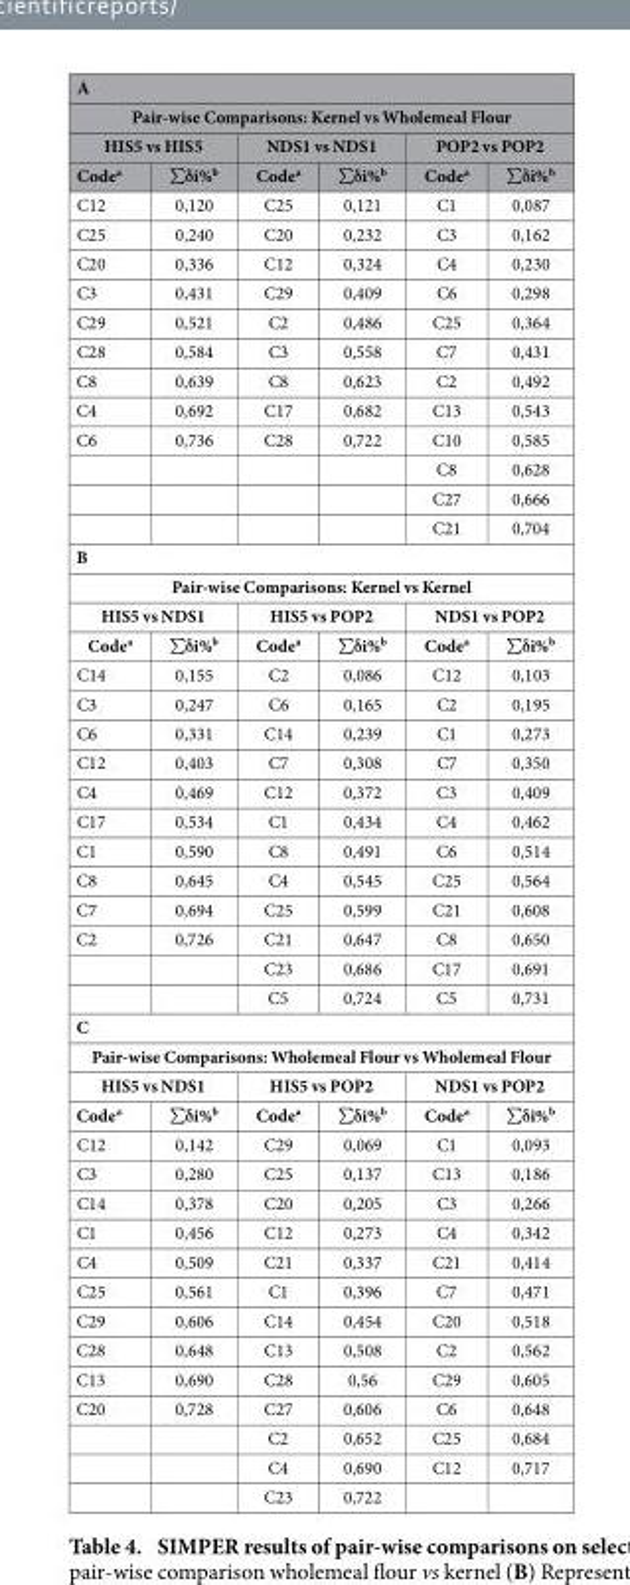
<table><thead><tr><td rowspan="2" colspan="6">A Pair-wise Comparisons: Kernel vs Wholemeal Flour</td></tr><tr></tr><tr><td colspan="2">HIS5 vs HIS5</td><td colspan="2">NDS1 vs NDS1</td><td colspan="2">POP2 vs POP2</td></tr><tr><td>Code<sup>a</sup></td><td>∑δi%<sup>b</sup></td><td>Code<sup>a</sup></td><td>∑δi%<sup>b</sup></td><td>Code<sup>a</sup></td><td>∑δi%<sup>b</sup></td></tr></thead><tbody><tr><td>C12</td><td>0,120</td><td>C25</td><td>0,121</td><td>C1</td><td>0,087</td></tr><tr><td>C25</td><td>0,240</td><td>C20</td><td>0,232</td><td>C3</td><td>0,162</td></tr><tr><td>C20</td><td>0,336</td><td>C12</td><td>0,324</td><td>C4</td><td>0,230</td></tr><tr><td>C3</td><td>0,431</td><td>C29</td><td>0,409</td><td>C6</td><td>0,298</td></tr><tr><td>C29</td><td>0,521</td><td>C2</td><td>0,486</td><td>C25</td><td>0,364</td></tr><tr><td>C28</td><td>0,584</td><td>C3</td><td>0,558</td><td>C7</td><td>0,431</td></tr><tr><td>C8</td><td>0,639</td><td>C8</td><td>0,623</td><td>C2</td><td>0,492</td></tr><tr><td>C4</td><td>0,692</td><td>C17</td><td>0,682</td><td>C13</td><td>0,543</td></tr><tr><td rowspan="4">C6</td><td>0,736</td><td>C28</td><td>0,722</td><td>C10</td><td>0,585</td></tr><tr><td></td><td></td><td></td><td>C8</td><td>0,628</td></tr><tr><td></td><td></td><td></td><td>C27</td><td>0,666</td></tr><tr><td></td><td></td><td></td><td>C21</td><td>0,704</td></tr><tr><td colspan="6">B</td></tr><tr><td colspan="6">Pair-wise Comparisons: Kernel vs Kernel</td></tr><tr><td colspan="2">HIS5 vs NDS1</td><td colspan="2">HIS5 vs POP2</td><td colspan="2">NDS1 vs POP2</td></tr><tr><td>Code<sup>a</sup></td><td>∑ δ i%<sup>b</sup></td><td>Code<sup>a</sup></td><td>∑ δ i%<sup>b</sup></td><td>Code<sup>a</sup></td><td>∑ δ i%<sup>b</sup></td></tr><tr><td>C14</td><td>0,155</td><td>C2</td><td>0,086</td><td>C12</td><td>0,103</td></tr><tr><td>C3</td><td>0,247</td><td>C6</td><td>0,165</td><td>C2</td><td>0,195</td></tr><tr><td>C6</td><td>0,331</td><td>C14</td><td>0,239</td><td>C1</td><td>0,273</td></tr><tr><td>C12</td><td>0,403</td><td>C7</td><td>0,308</td><td>C7</td><td>0,350</td></tr><tr><td>C4</td><td>0,469</td><td>C12</td><td>0,372</td><td>C3</td><td>0,409</td></tr><tr><td>C17</td><td>0,534</td><td>C1</td><td>0,434</td><td>C4</td><td>0,462</td></tr><tr><td>C1</td><td>0,590</td><td>C8</td><td>0,491</td><td>C6</td><td>0,514</td></tr><tr><td>C8</td><td>0,645</td><td>C4</td><td>0,545</td><td>C25</td><td>0,564</td></tr><tr><td>C7</td><td>0,694</td><td>C25</td><td>0,599</td><td>C21</td><td>0,608</td></tr><tr><td rowspan="3">C2</td><td>0,726</td><td>C21</td><td>0,647</td><td>C8</td><td>0,650</td></tr><tr><td></td><td>C23</td><td>0,686</td><td>C17</td><td>0,691</td></tr><tr><td></td><td>C5</td><td>0,724</td><td>C5</td><td>0,731</td></tr><tr><td colspan="6">C</td></tr><tr><td colspan="6">Pair-wise Comparisons: Wholemeal Flour vs Wholemeal Flour</td></tr><tr><td colspan="2">HIS5 vs NDS1</td><td colspan="2">HIS5 vs POP2</td><td colspan="2">NDS1 vs POP2</td></tr><tr><td>Code<sup>a</sup></td><td>∑ δ i%<sup>b</sup></td><td>Code<sup>a</sup></td><td>∑ δ i%<sup>b</sup></td><td>Code<sup>a</sup></td><td>∑ δ i%<sup>b</sup></td></tr><tr><td>C12</td><td>0,142</td><td>C29</td><td>0,069</td><td>C1</td><td>0,093</td></tr><tr><td>C3</td><td>0,280</td><td>C25</td><td>0,137</td><td>C13</td><td>0,186</td></tr><tr><td>C14</td><td>0,378</td><td>C20</td><td>0,205</td><td>C3</td><td>0,266</td></tr><tr><td>C1</td><td>0,456</td><td>C12</td><td>0,273</td><td>C4</td><td>0,342</td></tr><tr><td>C4</td><td>0,509</td><td>C21</td><td>0,337</td><td>C21</td><td>0,414</td></tr><tr><td>C25</td><td>0,561</td><td>C1</td><td>0,396</td><td>C7</td><td>0,471</td></tr><tr><td>C29</td><td>0,606</td><td>C14</td><td>0,454</td><td>C20</td><td>0,518</td></tr><tr><td>C28</td><td>0,648</td><td>C13</td><td>0,508</td><td>C2</td><td>0,562</td></tr><tr><td>C13</td><td>0,690</td><td>C28</td><td>0,56</td><td>C29</td><td>0,605</td></tr><tr><td rowspan="4">C20</td><td>0,728</td><td>C27</td><td>0,606</td><td>C6</td><td>0,648</td></tr><tr><td></td><td>C2</td><td>0,652</td><td>C25</td><td>0,684</td></tr><tr><td></td><td>C4</td><td>0,690</td><td>C12</td><td>0,717</td></tr><tr><td></td><td>C23</td><td>0,722</td><td></td><td></td></tr></tbody></table>